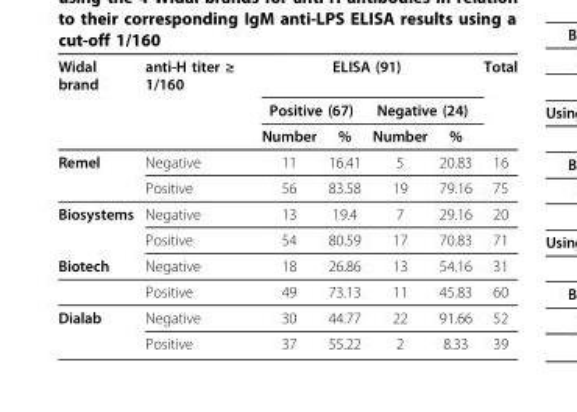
<table><thead><tr><td rowspan="3">Widal brand</td><td rowspan="3">anti-H titer ≥ 1/160</td><td colspan="4">ELISA (91)</td><td rowspan="3">Total</td></tr><tr><td colspan="2">Positive (67)</td><td colspan="2">Negative (24)</td></tr><tr><td>Number</td><td>%</td><td>Number</td><td>%</td></tr></thead><tbody><tr><td rowspan="2">Remel</td><td>Negative</td><td>11</td><td>16.41</td><td>5</td><td>20.83</td><td>16</td></tr><tr><td>Positive</td><td>56</td><td>83.58</td><td>19</td><td>79.16</td><td>75</td></tr><tr><td rowspan="2">Biosystems</td><td>Negative</td><td>13</td><td>19.4</td><td>7</td><td>29.16</td><td>20</td></tr><tr><td>Positive</td><td>54</td><td>80.59</td><td>17</td><td>70.83</td><td>71</td></tr><tr><td rowspan="2">Biotech</td><td>Negative</td><td>18</td><td>26.86</td><td>13</td><td>54.16</td><td>31</td></tr><tr><td>Positive</td><td>49</td><td>73.13</td><td>11</td><td>45.83</td><td>60</td></tr><tr><td rowspan="2">Dialab</td><td>Negative</td><td>30</td><td>44.77</td><td>22</td><td>91.66</td><td>52</td></tr><tr><td>Positive</td><td>37</td><td>55.22</td><td>2</td><td>8.33</td><td>39</td></tr></tbody></table>